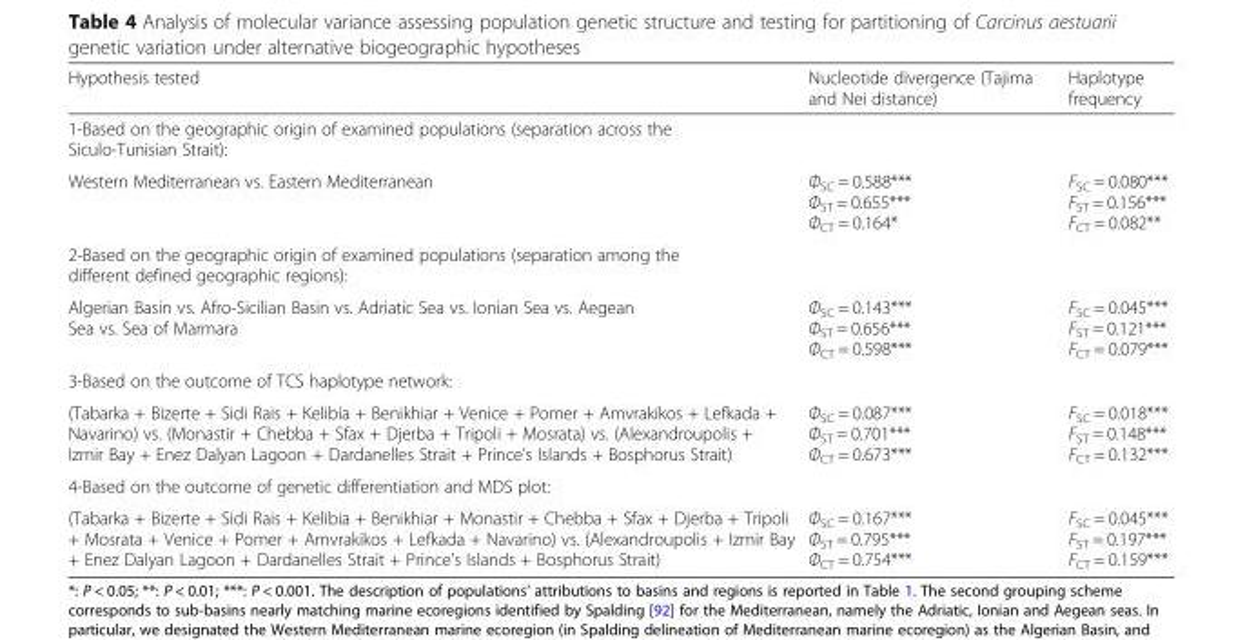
<table><thead><tr><td>Hypothesis tested</td><td>Nucleotide divergence (Tajima and Nei distance)</td><td>Haplotype frequency</td></tr></thead><tbody><tr><td colspan="3">1-Based on the geographic origin of examined populations (separation across the Siculo-Tunisian Strait):</td></tr><tr><td>Western Mediterranean vs. Eastern Mediterranean</td><td>Φ<sub>SC</sub> = 0.588*** Φ<sub>ST</sub> = 0.655*** Φ<sub>CT</sub> = 0.164*</td><td>F<sub>SC</sub> = 0.080*** F<sub>ST</sub> = 0.156*** F<sub>CT</sub> = 0.082**</td></tr><tr><td colspan="3">2-Based on the geographic origin of examined populations (separation among the different defined geographic regions):</td></tr><tr><td>Algerian Basin vs. Afro-Sicilian Basin vs. Adriatic Sea vs. Ionian Sea vs. Aegean Sea vs. Sea of Marmara</td><td>Φ<sub>SC</sub> = 0.143*** Φ<sub>ST</sub> = 0.656*** Φ<sub>CT</sub> = 0.598***</td><td>F<sub>SC</sub> = 0.045*** F<sub>ST</sub> = 0.121*** F<sub>CT</sub> = 0.079***</td></tr><tr><td colspan="3">3-Based on the outcome of TCS haplotype network:</td></tr><tr><td>(Tabarka + Bizerte + Sidi Rais + Kelibia + Benikhiar + Venice + Pomer + Amvrakikos + Lefkada + Navarino) vs. (Monastir + Chebba + Sfax + Djerba + Tripoli + Mosrata) vs. (Alexandroupolis + Izmir Bay + Enez Dalyan Lagoon + Dardanelles Strait + Prince’s Islands + Bosphorus Strait)</td><td>Φ<sub>SC</sub> = 0.087*** Φ<sub>ST</sub> = 0.701*** Φ<sub>CT</sub> = 0.673***</td><td>F<sub>SC</sub> = 0.018*** F<sub>ST</sub> = 0.148*** F<sub>CT</sub> = 0.132***</td></tr><tr><td colspan="3">4-Based on the outcome of genetic differentiation and MDS plot:</td></tr><tr><td>(Tabarka + Bizerte + Sidi Rais + Kelibia + Benikhiar + Monastir + Chebba + Sfax + Djerba + Tripoli + Mosrata + Venice + Pomer + Amvrakikos + Lefkada + Navarino) vs. (Alexandroupolis + Izmir Bay + Enez Dalyan Lagoon + Dardanelles Strait + Prince’s Islands + Bosphorus Strait)</td><td>Φ<sub>SC</sub> = 0.167*** Φ<sub>ST</sub> = 0.795*** Φ<sub>CT</sub> = 0.754***</td><td>F<sub>SC</sub> = 0.045*** F<sub>ST</sub> = 0.197*** F<sub>CT</sub> = 0.159***</td></tr></tbody></table>